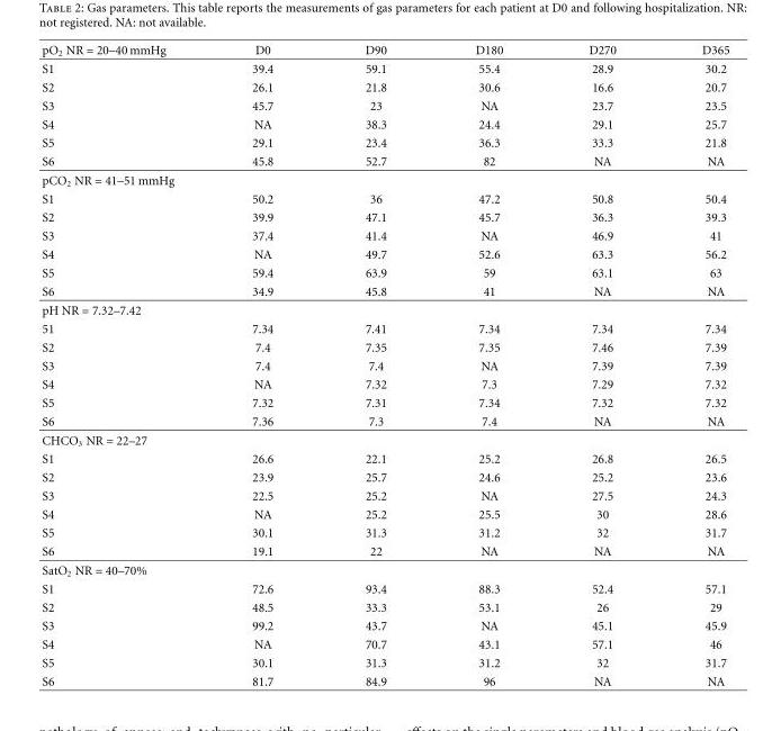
<table><thead><tr><td>pO<sub>2</sub> NR = 20–40 mmHg</td><td>D0</td><td>D90</td><td>D180</td><td>D270</td><td>D365</td></tr></thead><tbody><tr><td>S1</td><td>39.4</td><td>59.1</td><td>55.4</td><td>28.9</td><td>30.2</td></tr><tr><td>S2</td><td>26.1</td><td>21.8</td><td>30.6</td><td>16.6</td><td>20.7</td></tr><tr><td>S3</td><td>45.7</td><td>23</td><td>NA</td><td>23.7</td><td>23.5</td></tr><tr><td>S4</td><td>NA</td><td>38.3</td><td>24.4</td><td>29.1</td><td>25.7</td></tr><tr><td>S5</td><td>29.1</td><td>23.4</td><td>36.3</td><td>33.3</td><td>21.8</td></tr><tr><td>S6</td><td>45.8</td><td>52.7</td><td>82</td><td>NA</td><td>NA</td></tr><tr><td colspan="6">pCO<sub>2</sub> NR = 41–51 mmHg</td></tr><tr><td>S1</td><td>50.2</td><td>36</td><td>47.2</td><td>50.8</td><td>50.4</td></tr><tr><td>S2</td><td>39.9</td><td>47.1</td><td>45.7</td><td>36.3</td><td>39.3</td></tr><tr><td>S3</td><td>37.4</td><td>41.4</td><td>NA</td><td>46.9</td><td>41</td></tr><tr><td>S4</td><td>NA</td><td>49.7</td><td>52.6</td><td>63.3</td><td>56.2</td></tr><tr><td>S5</td><td>59.4</td><td>63.9</td><td>59</td><td>63.1</td><td>63</td></tr><tr><td>S6</td><td>34.9</td><td>45.8</td><td>41</td><td>NA</td><td>NA</td></tr><tr><td colspan="6">pH NR = 7.32–7.42</td></tr><tr><td>51</td><td>7.34</td><td>7.41</td><td>7.34</td><td>7.34</td><td>7.34</td></tr><tr><td>S2</td><td>7.4</td><td>7.35</td><td>7.35</td><td>7.46</td><td>7.39</td></tr><tr><td>S3</td><td>7.4</td><td>7.4</td><td>NA</td><td>7.39</td><td>7.39</td></tr><tr><td>S4</td><td>NA</td><td>7.32</td><td>7.3</td><td>7.29</td><td>7.32</td></tr><tr><td>S5</td><td>7.32</td><td>7.31</td><td>7.34</td><td>7.32</td><td>7.32</td></tr><tr><td>S6</td><td>7.36</td><td>7.3</td><td>7.4</td><td>NA</td><td>NA</td></tr><tr><td colspan="6">CHCO<sub>3</sub> NR = 22–27</td></tr><tr><td>S1</td><td>26.6</td><td>22.1</td><td>25.2</td><td>26.8</td><td>26.5</td></tr><tr><td>S2</td><td>23.9</td><td>25.7</td><td>24.6</td><td>25.2</td><td>23.6</td></tr><tr><td>S3</td><td>22.5</td><td>25.2</td><td>NA</td><td>27.5</td><td>24.3</td></tr><tr><td>S4</td><td>NA</td><td>25.2</td><td>25.5</td><td>30</td><td>28.6</td></tr><tr><td>S5</td><td>30.1</td><td>31.3</td><td>31.2</td><td>32</td><td>31.7</td></tr><tr><td>S6</td><td>19.1</td><td>22</td><td>NA</td><td>NA</td><td>NA</td></tr><tr><td colspan="6">SatO<sub>2</sub> NR = 40–70%</td></tr><tr><td>S1</td><td>72.6</td><td>93.4</td><td>88.3</td><td>52.4</td><td>57.1</td></tr><tr><td>S2</td><td>48.5</td><td>33.3</td><td>53.1</td><td>26</td><td>29</td></tr><tr><td>S3</td><td>99.2</td><td>43.7</td><td>NA</td><td>45.1</td><td>45.9</td></tr><tr><td>S4</td><td>NA</td><td>70.7</td><td>43.1</td><td>57.1</td><td>46</td></tr><tr><td>S5</td><td>30.1</td><td>31.3</td><td>31.2</td><td>32</td><td>31.7</td></tr><tr><td>S6</td><td>81.7</td><td>84.9</td><td>96</td><td>NA</td><td>NA</td></tr></tbody></table>